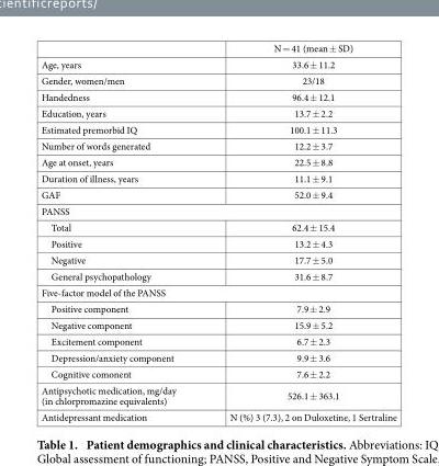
<table><thead><tr><td></td><td>N = 41 (mean ± SD)</td></tr></thead><tbody><tr><td>Age, years</td><td>33.6 ± 11.2</td></tr><tr><td>Gender, women/men</td><td>23/18</td></tr><tr><td>Handedness</td><td>96.4 ± 12.1</td></tr><tr><td>Education, years</td><td>13.7 ± 2.2</td></tr><tr><td>Estimated premorbid IQ</td><td>100.1 ± 11.3</td></tr><tr><td>Number of words generated</td><td>12.2 ± 3.7</td></tr><tr><td>Age at onset, years</td><td>22.5 ± 8.8</td></tr><tr><td>Duration of illness, years</td><td>11.1 ± 9.1</td></tr><tr><td>GAF</td><td>52.0 ± 9.4</td></tr><tr><td colspan="2">PANSS</td></tr><tr><td>Total</td><td>62.4 ± 15.4</td></tr><tr><td>Positive</td><td>13.2 ± 4.3</td></tr><tr><td>Negative</td><td>17.7 ± 5.0</td></tr><tr><td>General psychopathology</td><td>31.6 ± 8.7</td></tr><tr><td colspan="2">Five-factor model of the PANSS</td></tr><tr><td>Positive component</td><td>7.9 ± 2.9</td></tr><tr><td>Negative component</td><td>15.9 ± 5.2</td></tr><tr><td>Excitement component</td><td>6.7 ± 2.3</td></tr><tr><td>Depression/anxiety component</td><td>9.9 ± 3.6</td></tr><tr><td>Cognitive comonent</td><td>7.6 ± 2.2</td></tr><tr><td>Antipsychotic medication, mg/day (in chlorpromazine equivalents)</td><td>526.1 ± 363.1</td></tr><tr><td>Antidepressant medication</td><td>N (%) 3 (7.3), 2 on Duloxetine, 1 Sertraline</td></tr></tbody></table>